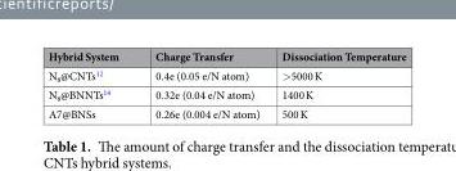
<table><thead><tr><td>Hybrid System</td><td>Charge Transfer</td><td>Dissociation Temperature</td></tr></thead><tbody><tr><td>N<sub>8</sub>@CNTs<sup>12</sup></td><td>0.4e (0.05 e/N atom)</td><td>&gt;5000 K</td></tr><tr><td>N<sub>8</sub>@BNNTs<sup>14</sup></td><td>0.32e (0.04 e/N atom)</td><td>1400 K</td></tr><tr><td>A7@BNSs</td><td>0.26e (0.004 e/N atom)</td><td>500 K</td></tr></tbody></table>